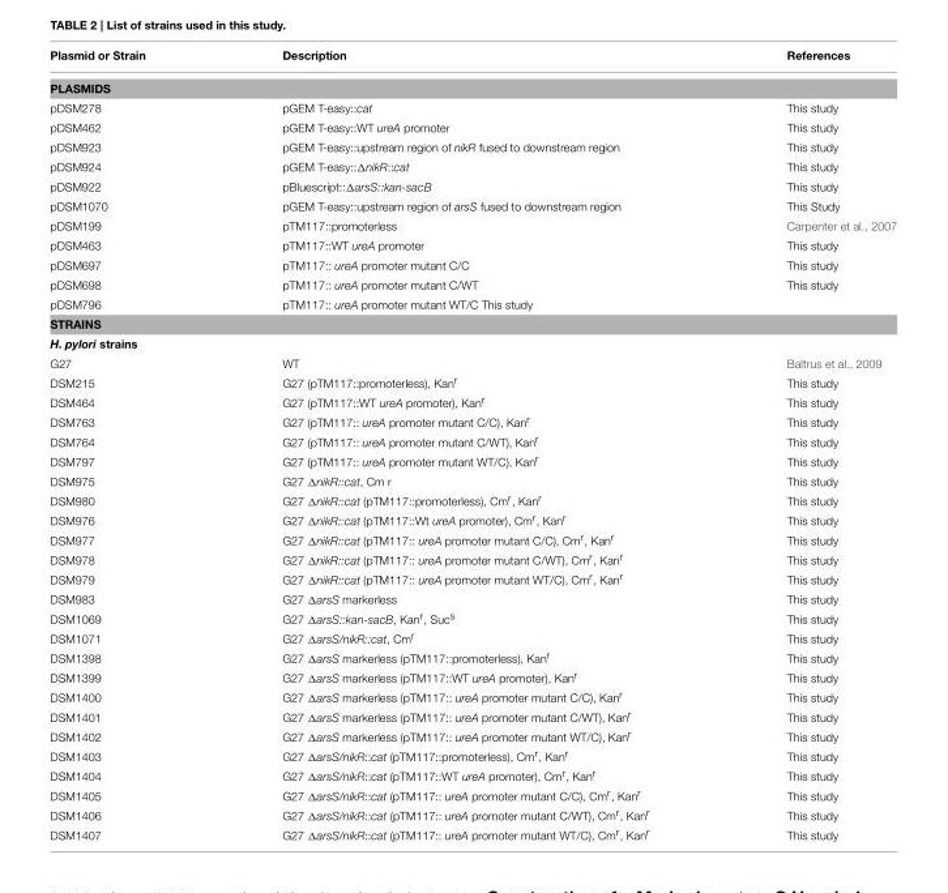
<table><thead><tr><td>Plasmid or Strain</td><td>Description</td><td>References</td></tr></thead><tbody><tr><td colspan="3">PLASMIDS</td></tr><tr><td>pDSM278</td><td>pGEM T-easy::cat</td><td>This study</td></tr><tr><td>pDSM462</td><td>pGEM T-easy::WT ureA promoter</td><td>This study</td></tr><tr><td>pDSM923</td><td>pGEM T-easy::upstream region of nikR fused to downstream region</td><td>This study</td></tr><tr><td>pDSM924</td><td>pGEM T-easy::ΔnikR::cat</td><td>This study</td></tr><tr><td>pDSM922</td><td>pBluescript::ΔarsS::kan-sacB</td><td>This study</td></tr><tr><td>pDSM1070</td><td>pGEM T-easy::upstream region of arsS fused to downstream region</td><td>This Study</td></tr><tr><td>pDSM199</td><td>pTM117::promoterless</td><td>Carpenter et al., 2007</td></tr><tr><td>pDSM463</td><td>pTM117::WT ureA promoter</td><td>This study</td></tr><tr><td>pDSM697</td><td>pTM117:: ureA promoter mutant C/C</td><td>This study</td></tr><tr><td>pDSM698</td><td>pTM117:: ureA promoter mutant C/WT</td><td>This study</td></tr><tr><td>pDSM796</td><td>pTM117:: ureA promoter mutant WT/C This study</td><td></td></tr><tr><td colspan="3">STRAINS</td></tr><tr><td colspan="3">H. pylori strains</td></tr><tr><td>G27</td><td>WT</td><td>Baltrus et al., 2009</td></tr><tr><td>DSM215</td><td>G27 (pTM117::promoterless), Kan<sup>r</sup></td><td>This study</td></tr><tr><td>DSM464</td><td>G27 (pTM117::WT ureA promoter), Kan<sup>r</sup></td><td>This study</td></tr><tr><td>DSM763</td><td>G27 (pTM117:: ureA promoter mutant C/C), Kan<sup>r</sup></td><td>This study</td></tr><tr><td>DSM764</td><td>G27 (pTM117:: ureA promoter mutant C/WT), Kan<sup>r</sup></td><td>This study</td></tr><tr><td>DSM797</td><td>G27 (pTM117:: ureA promoter mutant WT/C), Kan<sup>r</sup></td><td>This study</td></tr><tr><td>DSM975</td><td>G27 ΔnikR::cat, Cm r</td><td>This study</td></tr><tr><td>DSM980</td><td>G27 ΔnikR::cat (pTM117::promoterless), Cm<sup>r</sup>, Kan<sup>r</sup></td><td>This study</td></tr><tr><td>DSM976</td><td>G27 ΔnikR::cat (pTM117::Wt ureA promoter), Cm<sup>r</sup>, Kan<sup>r</sup></td><td>This study</td></tr><tr><td>DSM977</td><td>G27 ΔnikR::cat (pTM117:: ureA promoter mutant C/C), Cm<sup>r</sup>, Kan<sup>r</sup></td><td>This study</td></tr><tr><td>DSM978</td><td>G27 ΔnikR::cat (pTM117:: ureA promoter mutant C/WT), Cm<sup>r</sup>, Kan<sup>r</sup></td><td>This study</td></tr><tr><td>DSM979</td><td>G27 ΔnikR::cat (pTM117:: ureA promoter mutant WT/C), Cm<sup>r</sup>, Kan<sup>r</sup></td><td>This study</td></tr><tr><td>DSM983</td><td>G27 ΔarsS markerless</td><td>This study</td></tr><tr><td>DSM1069</td><td>G27 ΔarsS::kan-sacB, Kan<sup>r</sup>, Suc<sup>s</sup></td><td>This study</td></tr><tr><td>DSM1071</td><td>G27 ΔarsS/nikR::cat, Cm<sup>r</sup></td><td>This study</td></tr><tr><td>DSM1398</td><td>G27 ΔarsS markerless (pTM117::promoterless), Kan<sup>r</sup></td><td>This study</td></tr><tr><td>DSM1399</td><td>G27 ΔarsS markerless (pTM117::WT ureA promoter), Kan<sup>r</sup></td><td>This study</td></tr><tr><td>DSM1400</td><td>G27 ΔarsS markerless (pTM117:: ureA promoter mutant C/C), Kan<sup>r</sup></td><td>This study</td></tr><tr><td>DSM1401</td><td>G27 ΔarsS markerless (pTM117:: ureA promoter mutant C/WT), Kan<sup>r</sup></td><td>This study</td></tr><tr><td>DSM1402</td><td>G27 ΔarsS markerless (pTM117:: ureA promoter mutant WT/C), Kan<sup>r</sup></td><td>This study</td></tr><tr><td>DSM1403</td><td>G27 ΔarsS/nikR::cat (pTM117::promoterless), Cm<sup>r</sup>, Kan<sup>r</sup></td><td>This study</td></tr><tr><td>DSM1404</td><td>G27 ΔarsS/nikR::cat (pTM117::WT ureA promoter), Cm<sup>r</sup>, Kan<sup>r</sup></td><td>This study</td></tr><tr><td>DSM1405</td><td>G27 ΔarsS/nikR::cat (pTM117:: ureA promoter mutant C/C), Cm<sup>r</sup>, Kan<sup>r</sup></td><td>This study</td></tr><tr><td>DSM1406</td><td>G27 ΔarsS/nikR::cat (pTM117:: ureA promoter mutant C/WT), Cm<sup>r</sup>, Kan<sup>r</sup></td><td>This study</td></tr><tr><td>DSM1407</td><td>G27 ΔarsS/nikR::cat (pTM117:: ureA promoter mutant WT/C), Cm<sup>r</sup>, Kan<sup>r</sup></td><td>This study</td></tr></tbody></table>